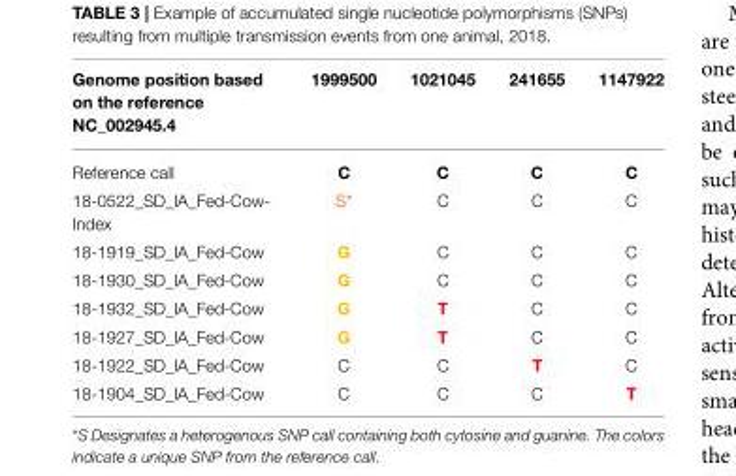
<table><thead><tr><td>Genome position based on the reference NC_002945.4</td><td>1999500</td><td>1021045</td><td>241655</td><td>1147922</td></tr></thead><tbody><tr><td>Reference call</td><td>C</td><td>C</td><td>C</td><td>C</td></tr><tr><td>18-0522_SD_IA_Fed-Cow- Index</td><td>S*</td><td>C</td><td>C</td><td>C</td></tr><tr><td>18-1919_SD_IA_Fed-Cow</td><td>G</td><td>C</td><td>C</td><td>C</td></tr><tr><td>18-1930_SD_IA_Fed-Cow</td><td>G</td><td>C</td><td>C</td><td>C</td></tr><tr><td>18-1932_SD_IA_Fed-Cow</td><td>G</td><td>T</td><td>C</td><td>C</td></tr><tr><td>18-1927_SD_IA_Fed-Cow</td><td>G</td><td>T</td><td>C</td><td>C</td></tr><tr><td>18-1922_SD_IA_Fed-Cow</td><td>C</td><td>C</td><td>T</td><td>C</td></tr><tr><td>18-1904_SD_IA_Fed-Cow</td><td>C</td><td>C</td><td>C</td><td>T</td></tr></tbody></table>